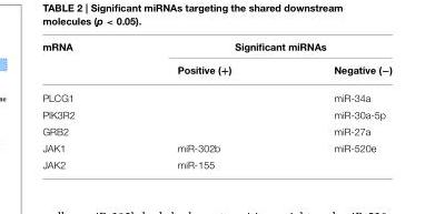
<table><thead><tr><td rowspan="2">mRNA</td><td colspan="2">Significant miRNAs</td></tr><tr><td>Positive (+)</td><td>Negative (−)</td></tr></thead><tbody><tr><td>PLCG1</td><td></td><td>miR-34a</td></tr><tr><td>PIK3R2</td><td></td><td>miR-30a-5p</td></tr><tr><td>GRB2</td><td></td><td>miR-27a</td></tr><tr><td>JAK1</td><td>miR-302b</td><td>miR-520e</td></tr><tr><td>JAK2</td><td>miR-155</td><td></td></tr></tbody></table>